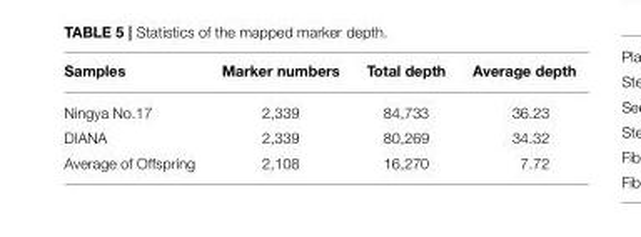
<table><thead><tr><td>Samples</td><td>Marker numbers</td><td>Total depth</td><td>Average depth</td></tr></thead><tbody><tr><td>Ningya No.17</td><td>2,339</td><td>84,733</td><td>36.23</td></tr><tr><td>DIANA</td><td>2,339</td><td>80,269</td><td>34.32</td></tr><tr><td>Average of Offspring</td><td>2,108</td><td>16,270</td><td>7.72</td></tr></tbody></table>